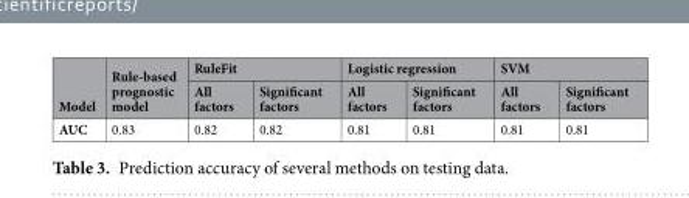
<table><thead><tr><td rowspan="2">Model</td><td rowspan="2">Rule-based prognostic model</td><td colspan="2">RuleFit</td><td colspan="2">Logistic regression</td><td colspan="2">SVM</td></tr><tr><td>All factors</td><td>Significant factors</td><td>All factors</td><td>Significant factors</td><td>All factors</td><td>Significant factors</td></tr></thead><tbody><tr><td>AUC</td><td>0.83</td><td>0.82</td><td>0.82</td><td>0.81</td><td>0.81</td><td>0.81</td><td>0.81</td></tr></tbody></table>